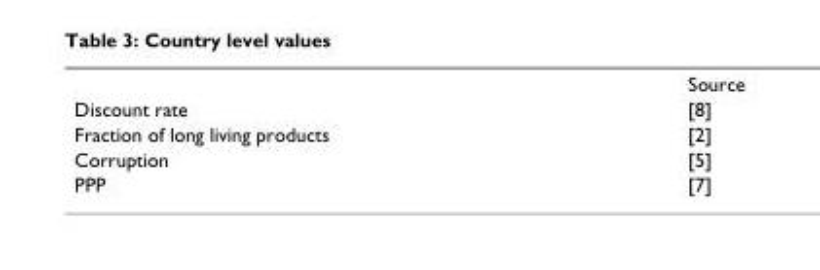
<table><thead><tr><td></td><td>Source</td></tr></thead><tbody><tr><td>Discount rate</td><td>[8]</td></tr><tr><td>Fraction of long living products</td><td>[2]</td></tr><tr><td>Corruption</td><td>[5]</td></tr><tr><td>PPP</td><td>[7]</td></tr></tbody></table>